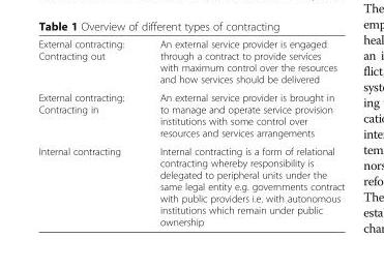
<table><tbody><tr><td>External contracting: Contracting out</td><td>An external service provider is engaged through a contract to provide services with maximum control over the resources and how services should be delivered</td></tr><tr><td>External contracting: Contracting in</td><td>An external service provider is brought in to manage and operate service provision institutions with some control over resources and services arrangements</td></tr><tr><td>Internal contracting</td><td>Internal contracting is a form of relational contracting whereby responsibility is delegated to peripheral units under the same legal entity e.g. governments contract with public providers i.e. with autonomous institutions which remain under public ownership</td></tr></tbody></table>